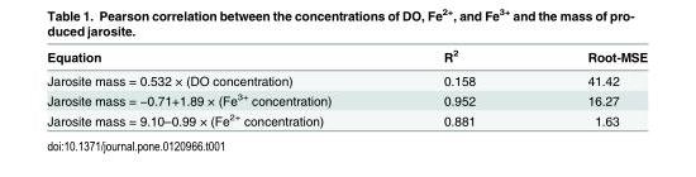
<table><thead><tr><td>Equation</td><td>R<sup>2</sup></td><td>Root-MSE</td></tr></thead><tbody><tr><td>Jarosite mass = 0.532 × (DO concentration)</td><td>0.158</td><td>41.42</td></tr><tr><td>Jarosite mass = −0.71+1.89 × (Fe<sup>3+</sup> concentration)</td><td>0.952</td><td>16.27</td></tr><tr><td>Jarosite mass = 9.10–0.99 × (Fe<sup>2+</sup> concentration)</td><td>0.881</td><td>1.63</td></tr></tbody></table>